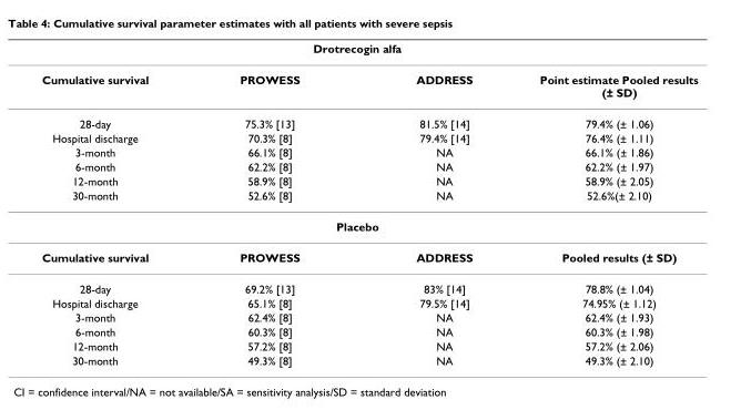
<table><thead><tr><td colspan="4">Drotrecogin alfa</td></tr><tr><td>Cumulative survival</td><td>PROWESS</td><td>ADDRESS</td><td>Point estimate Pooled results (± SD)</td></tr></thead><tbody><tr><td>28-day</td><td>75.3% [13]</td><td>81.5% [14]</td><td>79.4% (± 1.06)</td></tr><tr><td>Hospital discharge</td><td>70.3% [8]</td><td>79.4% [14]</td><td>76.4% (± 1.11)</td></tr><tr><td>3-month</td><td>66.1% [8]</td><td>NA</td><td>66.1% (± 1.86)</td></tr><tr><td>6-month</td><td>62.2% [8]</td><td>NA</td><td>62.2% (± 1.97)</td></tr><tr><td>12-month</td><td>58.9% [8]</td><td>NA</td><td>58.9% (± 2.05)</td></tr><tr><td>30-month</td><td>52.6% [8]</td><td>NA</td><td>52.6%(± 2.10)</td></tr><tr><td colspan="4">Placebo</td></tr><tr><td>Cumulative survival</td><td>PROWESS</td><td>ADDRESS</td><td>Pooled results (± SD)</td></tr><tr><td>28-day</td><td>69.2% [13]</td><td>83% [14]</td><td>78.8% (± 1.04)</td></tr><tr><td>Hospital discharge</td><td>65.1% [8]</td><td>79.5% [14]</td><td>74.95% (± 1.12)</td></tr><tr><td>3-month</td><td>62.4% [8]</td><td>NA</td><td>62.4% (± 1.93)</td></tr><tr><td>6-month</td><td>60.3% [8]</td><td>NA</td><td>60.3% (± 1.98)</td></tr><tr><td>12-month</td><td>57.2% [8]</td><td>NA</td><td>57.2% (± 2.06)</td></tr><tr><td>30-month</td><td>49.3% [8]</td><td>NA</td><td>49.3% (± 2.10)</td></tr></tbody></table>